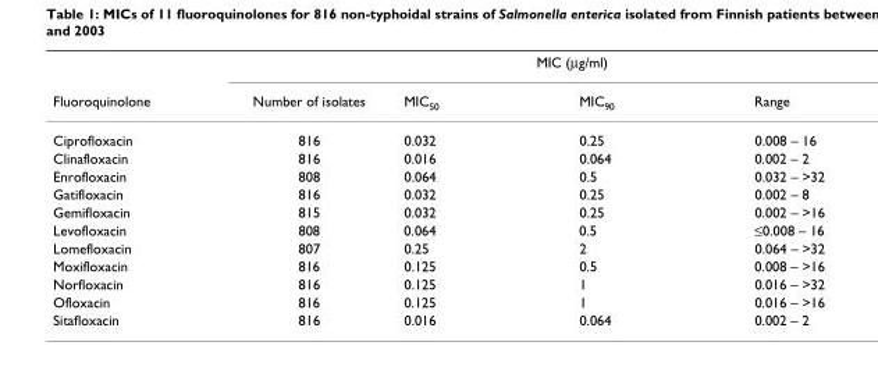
<table><thead><tr><td rowspan="2">Fluoroquinolone</td><td colspan="4">MIC (µg/ml)</td></tr><tr><td>Number of isolates</td><td>MIC<sub>50</sub></td><td>MIC<sub>90</sub></td><td>Range</td></tr></thead><tbody><tr><td>Ciprofloxacin</td><td>816</td><td>0.032</td><td>0.25</td><td>0.008 – 16</td></tr><tr><td>Clinafloxacin</td><td>816</td><td>0.016</td><td>0.064</td><td>0.002 – 2</td></tr><tr><td>Enrofloxacin</td><td>808</td><td>0.064</td><td>0.5</td><td>0.032 – &gt;32</td></tr><tr><td>Gatifloxacin</td><td>816</td><td>0.032</td><td>0.25</td><td>0.002 – 8</td></tr><tr><td>Gemifloxacin</td><td>815</td><td>0.032</td><td>0.25</td><td>0.002 – &gt;16</td></tr><tr><td>Levofloxacin</td><td>808</td><td>0.064</td><td>0.5</td><td>≤0.008 – 16</td></tr><tr><td>Lomefloxacin</td><td>807</td><td>0.25</td><td>2</td><td>0.064 – &gt;32</td></tr><tr><td>Moxifloxacin</td><td>816</td><td>0.125</td><td>0.5</td><td>0.008 – &gt;16</td></tr><tr><td>Norfloxacin</td><td>816</td><td>0.125</td><td>1</td><td>0.016 – &gt;32</td></tr><tr><td>Ofloxacin</td><td>816</td><td>0.125</td><td>1</td><td>0.016 – &gt;16</td></tr><tr><td>Sitafloxacin</td><td>816</td><td>0.016</td><td>0.064</td><td>0.002 – 2</td></tr></tbody></table>